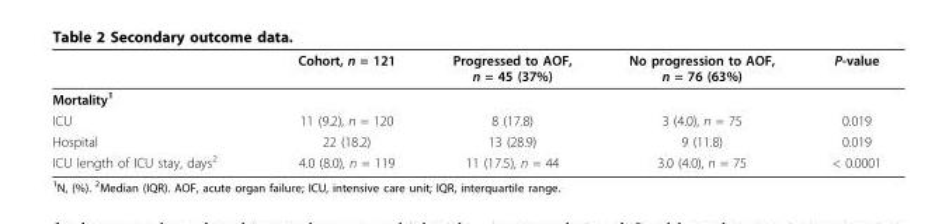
<table><thead><tr><td></td><td>Cohort, n = 121</td><td>Progressed to AOF, n = 45 (37%)</td><td>No progression to AOF, n = 76 (63%)</td><td>P-value</td></tr></thead><tbody><tr><td colspan="5">Mortality<sup>1</sup></td></tr><tr><td>ICU</td><td>11 (9.2), n = 120</td><td>8 (17.8)</td><td>3 (4.0), n = 75</td><td>0.019</td></tr><tr><td>Hospital</td><td>22 (18.2)</td><td>13 (28.9)</td><td>9 (11.8)</td><td>0.019</td></tr><tr><td>ICU length of ICU stay, days<sup>2</sup></td><td>4.0 (8.0), n = 119</td><td>11 (17.5), n = 44</td><td>3.0 (4.0), n = 75</td><td>&lt; 0.0001</td></tr></tbody></table>